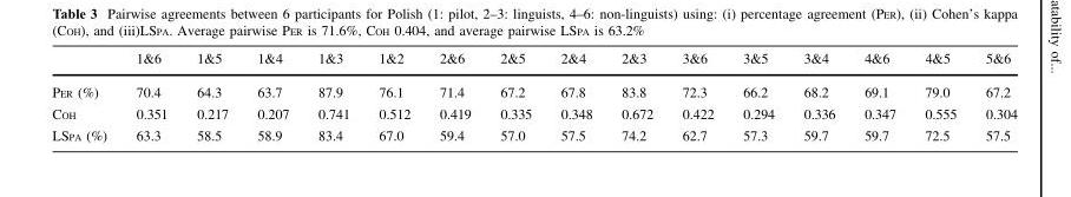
<table><thead><tr><td></td><td>1&amp;6</td><td>1&amp;5</td><td>1&amp;4</td><td>1&amp;3</td><td>1&amp;2</td><td>2&amp;6</td><td>2&amp;5</td><td>2&amp;4</td><td>2&amp;3</td><td>3&amp;6</td><td>3&amp;5</td><td>3&amp;4</td><td>4&amp;6</td><td>4&amp;5</td><td>5&amp;6</td></tr></thead><tbody><tr><td>PER (%)</td><td>70.4</td><td>64.3</td><td>63.7</td><td>87.9</td><td>76.1</td><td>71.4</td><td>67.2</td><td>67.8</td><td>83.8</td><td>72.3</td><td>66.2</td><td>68.2</td><td>69.1</td><td>79.0</td><td>67.2</td></tr><tr><td>COH</td><td>0.351</td><td>0.217</td><td>0.207</td><td>0.741</td><td>0.512</td><td>0.419</td><td>0.335</td><td>0.348</td><td>0.672</td><td>0.422</td><td>0.294</td><td>0.336</td><td>0.347</td><td>0.555</td><td>0.304</td></tr><tr><td>LSPA (%)</td><td>63.3</td><td>58.5</td><td>58.9</td><td>83.4</td><td>67.0</td><td>59.4</td><td>57.0</td><td>57.5</td><td>74.2</td><td>62.7</td><td>57.3</td><td>59.7</td><td>59.7</td><td>72.5</td><td>57.5</td></tr></tbody></table>